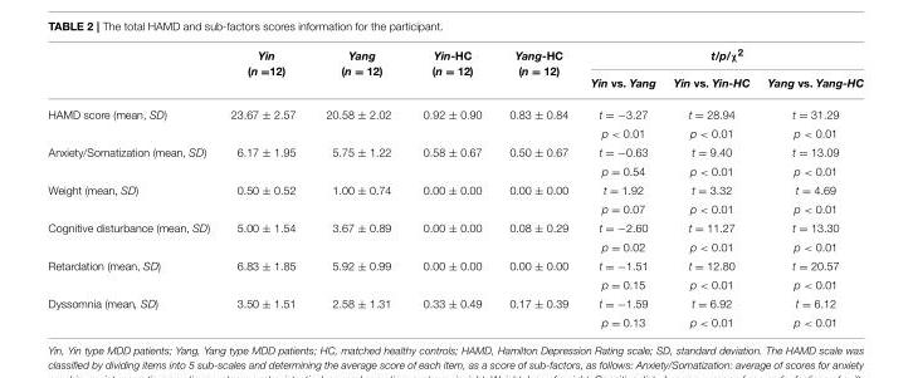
<table><thead><tr><td rowspan="2"></td><td rowspan="2">Yin (n =12)</td><td rowspan="2">Yang (n = 12)</td><td rowspan="2">Yin-HC (n = 12)</td><td rowspan="2">Yang-HC (n = 12)</td><td colspan="3">t/p/χ<sup>2</sup></td></tr><tr><td>Yin vs. Yang</td><td>Yin vs. Yin-HC</td><td>Yang vs. Yang-HC</td></tr></thead><tbody><tr><td rowspan="2">HAMD score (mean, SD)</td><td>23.67 ± 2.57</td><td>20.58 ± 2.02</td><td>0.92 ± 0.90</td><td>0.83 ± 0.84</td><td>t = −3.27</td><td>t = 28.94</td><td>t = 31.29</td></tr><tr><td></td><td></td><td></td><td></td><td>p &lt; 0.01</td><td>p &lt; 0.01</td><td>p &lt; 0.01</td></tr><tr><td rowspan="2">Anxiety/Somatization (mean, SD)</td><td>6.17 ± 1.95</td><td>5.75 ± 1.22</td><td>0.58 ± 0.67</td><td>0.50 ± 0.67</td><td>t = −0.63</td><td>t = 9.40</td><td>t = 13.09</td></tr><tr><td></td><td></td><td></td><td></td><td>p = 0.54</td><td>p &lt; 0.01</td><td>p &lt; 0.01</td></tr><tr><td rowspan="2">Weight (mean, SD)</td><td>0.50 ± 0.52</td><td>1.00 ± 0.74</td><td>0.00 ± 0.00</td><td>0.00 ± 0.00</td><td>t = 1.92</td><td>t = 3.32</td><td>t = 4.69</td></tr><tr><td></td><td></td><td></td><td></td><td>p = 0.07</td><td>p &lt; 0.01</td><td>p &lt; 0.01</td></tr><tr><td rowspan="2">Cognitive disturbance (mean, SD)</td><td>5.00 ± 1.54</td><td>3.67 ± 0.89</td><td>0.00 ± 0.00</td><td>0.08 ± 0.29</td><td>t = −2.60</td><td>t = 11.27</td><td>t = 13.30</td></tr><tr><td></td><td></td><td></td><td></td><td>p = 0.02</td><td>p &lt; 0.01</td><td>p &lt; 0.01</td></tr><tr><td rowspan="2">Retardation (mean, SD)</td><td>6.83 ± 1.85</td><td>5.92 ± 0.99</td><td>0.00 ± 0.00</td><td>0.00 ± 0.00</td><td>t = −1.51</td><td>t = 12.80</td><td>t = 20.57</td></tr><tr><td></td><td></td><td></td><td></td><td>p = 0.15</td><td>p &lt; 0.01</td><td>p &lt; 0.01</td></tr><tr><td rowspan="2">Dyssomnia (mean, SD)</td><td>3.50 ± 1.51</td><td>2.58 ± 1.31</td><td>0.33 ± 0.49</td><td>0.17 ± 0.39</td><td>t = −1.59</td><td>t = 6.92</td><td>t = 6.12</td></tr><tr><td></td><td></td><td></td><td></td><td>p = 0.13</td><td>p &lt; 0.01</td><td>p &lt; 0.01</td></tr></tbody></table>